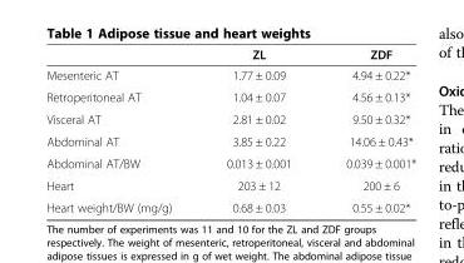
<table><thead><tr><td></td><td>ZL</td><td>ZDF</td></tr></thead><tbody><tr><td>Mesenteric AT</td><td>1.77 ± 0.09</td><td>4.94 ± 0.22*</td></tr><tr><td>Retroperitoneal AT</td><td>1.04 ± 0.07</td><td>4.56 ± 0.13*</td></tr><tr><td>Visceral AT</td><td>2.81 ± 0.02</td><td>9.50 ± 0.32*</td></tr><tr><td>Abdominal AT</td><td>3.85 ± 0.22</td><td>14.06 ± 0.43*</td></tr><tr><td>Abdominal AT/BW</td><td>0.013 ± 0.001</td><td>0.039 ± 0.001*</td></tr><tr><td>Heart</td><td>203 ± 12</td><td>200 ± 6</td></tr><tr><td>Heart weight/BW (mg/g)</td><td>0.68 ± 0.03</td><td>0.55 ± 0.02*</td></tr></tbody></table>